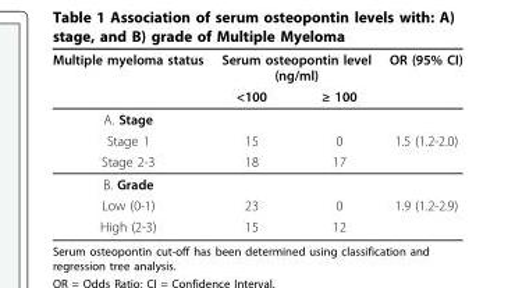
<table><thead><tr><td rowspan="2">Multiple myeloma status</td><td colspan="2">Serum osteopontin level (ng/ml)</td><td rowspan="2">OR (95% CI)</td></tr><tr><td>&lt;100</td><td>≥ 100</td></tr></thead><tbody><tr><td colspan="4">A. Stage</td></tr><tr><td>Stage 1</td><td>15</td><td>0</td><td>1.5 (1.2-2.0)</td></tr><tr><td>Stage 2-3</td><td>18</td><td>17</td><td></td></tr><tr><td colspan="4">B. Grade</td></tr><tr><td>Low (0-1)</td><td>23</td><td>0</td><td>1.9 (1.2-2.9)</td></tr><tr><td>High (2-3)</td><td>15</td><td>12</td><td></td></tr></tbody></table>